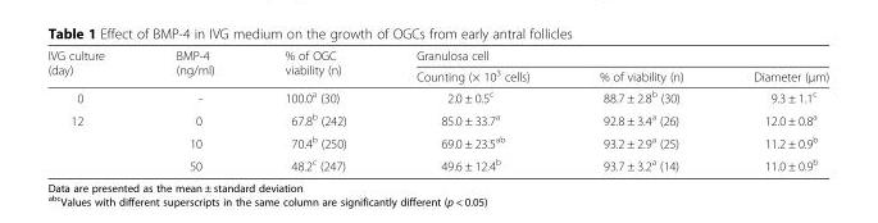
<table><thead><tr><td rowspan="2">IVG culture (day)</td><td rowspan="2">BMP-4 (ng/ml)</td><td rowspan="2">% of OGC viability (n)</td><td colspan="3">Granulosa cell</td></tr><tr><td>Counting (× 10<sup>3</sup> cells)</td><td>% of viability (n)</td><td>Diameter (μm)</td></tr></thead><tbody><tr><td>0</td><td>-</td><td>100.0<sup>a</sup> (30)</td><td>2.0 ± 0.5<sup>c</sup></td><td>88.7 ± 2.8<sup>b</sup> (30)</td><td>9.3 ± 1.1<sup>c</sup></td></tr><tr><td rowspan="3">12</td><td>0</td><td>67.8<sup>b</sup> (242)</td><td>85.0 ± 33.7<sup>a</sup></td><td>92.8 ± 3.4<sup>a</sup> (26)</td><td>12.0 ± 0.8<sup>a</sup></td></tr><tr><td>10</td><td>70.4<sup>b</sup> (250)</td><td>69.0 ± 23.5<sup>ab</sup></td><td>93.2 ± 2.9<sup>a</sup> (25)</td><td>11.2 ± 0.9<sup>b</sup></td></tr><tr><td>50</td><td>48.2<sup>c</sup> (247)</td><td>49.6 ± 12.4<sup>b</sup></td><td>93.7 ± 3.2<sup>a</sup> (14)</td><td>11.0 ± 0.9<sup>b</sup></td></tr></tbody></table>